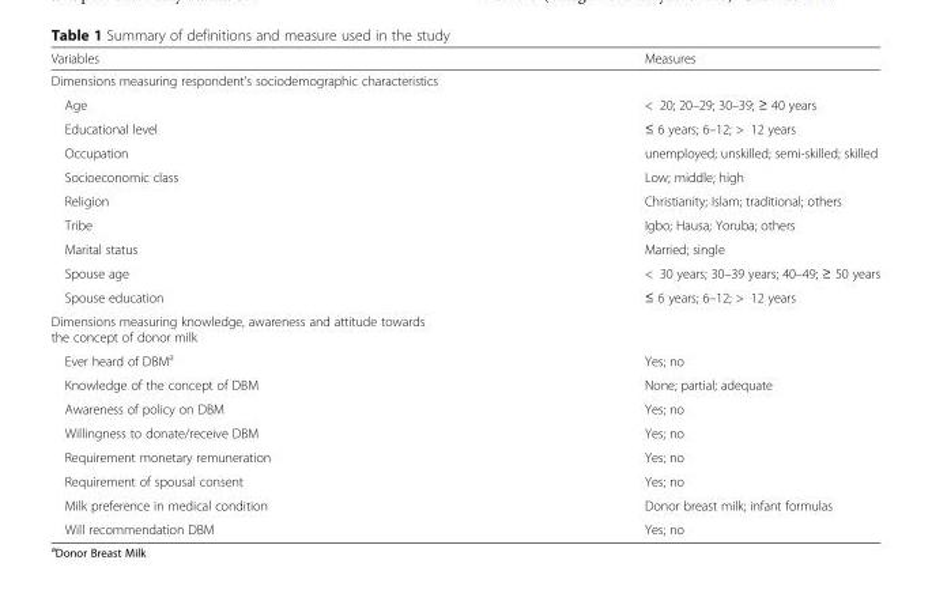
<table><thead><tr><td>Variables</td><td>Measures</td></tr></thead><tbody><tr><td colspan="2">Dimensions measuring respondent’s sociodemographic characteristics</td></tr><tr><td>Age</td><td>&lt; 20; 20–29; 30–39; ≥ 40 years</td></tr><tr><td>Educational level</td><td>≤ 6 years; 6–12; &gt; 12 years</td></tr><tr><td>Occupation</td><td>unemployed; unskilled; semi-skilled; skilled</td></tr><tr><td>Socioeconomic class</td><td>Low; middle; high</td></tr><tr><td>Religion</td><td>Christianity; Islam; traditional; others</td></tr><tr><td>Tribe</td><td>Igbo; Hausa; Yoruba; others</td></tr><tr><td>Marital status</td><td>Married; single</td></tr><tr><td>Spouse age</td><td>&lt; 30 years; 30–39 years; 40–49; ≥ 50 years</td></tr><tr><td>Spouse education</td><td>≤ 6 years; 6–12; &gt; 12 years</td></tr><tr><td colspan="2">Dimensions measuring knowledge, awareness and attitude towards the concept of donor milk</td></tr><tr><td>Ever heard of DBM<sup>a</sup></td><td>Yes; no</td></tr><tr><td>Knowledge of the concept of DBM</td><td>None; partial; adequate</td></tr><tr><td>Awareness of policy on DBM</td><td>Yes; no</td></tr><tr><td>Willingness to donate/receive DBM</td><td>Yes; no</td></tr><tr><td>Requirement monetary remuneration</td><td>Yes; no</td></tr><tr><td>Requirement of spousal consent</td><td>Yes; no</td></tr><tr><td>Milk preference in medical condition</td><td>Donor breast milk; infant formulas</td></tr><tr><td>Will recommendation DBM</td><td>Yes; no</td></tr></tbody></table>